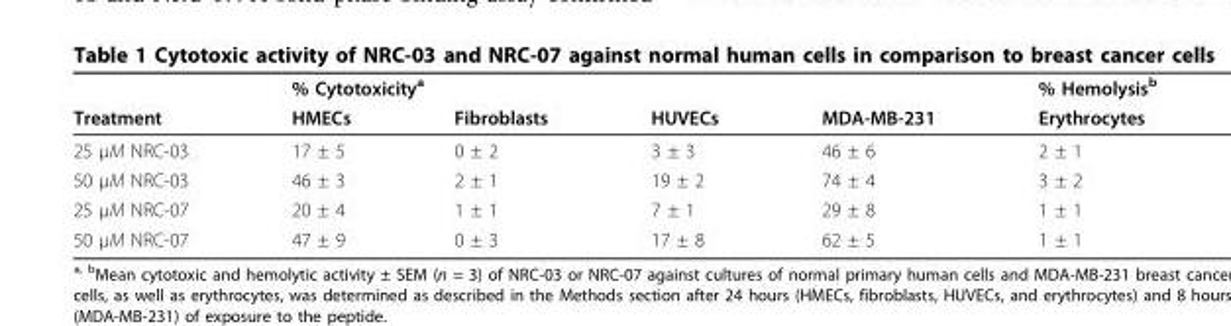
<table><thead><tr><td rowspan="2">Treatment</td><td colspan="4">% Cytotoxicity<sup>a</sup></td><td rowspan="2">% Hemolysis<sup>b</sup> Erythrocytes</td></tr><tr><td>HMECs</td><td>Fibroblasts</td><td>HUVECs</td><td>MDA-MB-231</td></tr></thead><tbody><tr><td>25 μM NRC-03</td><td>17 ± 5</td><td>0 ± 2</td><td>3 ± 3</td><td>46 ± 6</td><td>2 ± 1</td></tr><tr><td>50 μM NRC-03</td><td>46 ± 3</td><td>2 ± 1</td><td>19 ± 2</td><td>74 ± 4</td><td>3 ± 2</td></tr><tr><td>25 μM NRC-07</td><td>20 ± 4</td><td>1 ± 1</td><td>7 ± 1</td><td>29 ± 8</td><td>1 ± 1</td></tr><tr><td>50 μM NRC-07</td><td>47 ± 9</td><td>0 ± 3</td><td>17 ± 8</td><td>62 ± 5</td><td>1 ± 1</td></tr></tbody></table>